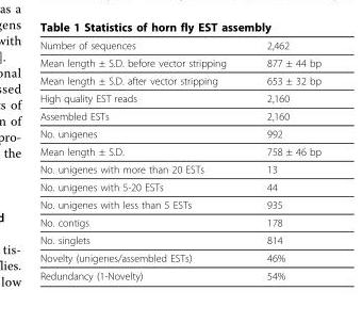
<table><thead><tr><td>Number of sequences</td><td>2,462</td></tr></thead><tbody><tr><td>Mean length ± S.D. before vector stripping</td><td>877 ± 44 bp</td></tr><tr><td>Mean length ± S.D. after vector stripping</td><td>653 ± 32 bp</td></tr><tr><td>High quality EST reads</td><td>2,160</td></tr><tr><td>Assembled ESTs</td><td>2,160</td></tr><tr><td>No. unigenes</td><td>992</td></tr><tr><td>Mean length ± S.D.</td><td>758 ± 46 bp</td></tr><tr><td>No. unigenes with more than 20 ESTs</td><td>13</td></tr><tr><td>No. unigenes with 5-20 ESTs</td><td>44</td></tr><tr><td>No. unigenes with less than 5 ESTs</td><td>935</td></tr><tr><td>No. contigs</td><td>178</td></tr><tr><td>No. singlets</td><td>814</td></tr><tr><td>Novelty (unigenes/assembled ESTs)</td><td>46%</td></tr><tr><td>Redundancy (1-Novelty)</td><td>54%</td></tr></tbody></table>